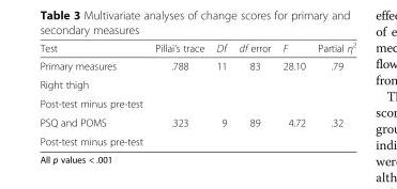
<table><thead><tr><td>Test</td><td>Pillai’s trace</td><td>Df</td><td>df error</td><td>F</td><td>Partial η<sup>2</sup></td></tr></thead><tbody><tr><td>Primary measures</td><td rowspan="3">.788</td><td rowspan="3">11</td><td rowspan="3">83</td><td rowspan="3">28.10</td><td rowspan="3">.79</td></tr><tr><td>Right thigh</td></tr><tr><td>Post-test minus pre-test</td></tr><tr><td>PSQ and POMS</td><td rowspan="2">.323</td><td rowspan="2">9</td><td rowspan="2">89</td><td rowspan="2">4.72</td><td rowspan="2">.32</td></tr><tr><td>Post-test minus pre-test</td></tr></tbody></table>